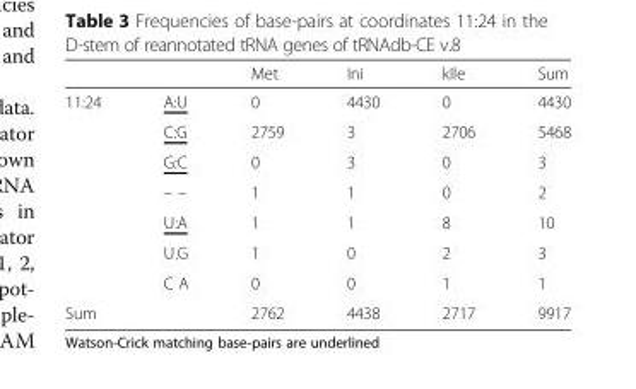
<table><thead><tr><td></td><td></td><td>Met</td><td>Ini</td><td>kIle</td><td>Sum</td></tr></thead><tbody><tr><td rowspan="7">11:24</td><td>A:U</td><td>0</td><td>4430</td><td>0</td><td>4430</td></tr><tr><td>C:G</td><td>2759</td><td>3</td><td>2706</td><td>5468</td></tr><tr><td>G:C</td><td>0</td><td>3</td><td>0</td><td>3</td></tr><tr><td>– –</td><td>1</td><td>1</td><td>0</td><td>2</td></tr><tr><td>U:A</td><td>1</td><td>1</td><td>8</td><td>10</td></tr><tr><td>U.G</td><td>1</td><td>0</td><td>2</td><td>3</td></tr><tr><td>C A</td><td>0</td><td>0</td><td>1</td><td>1</td></tr><tr><td>Sum</td><td></td><td>2762</td><td>4438</td><td>2717</td><td>9917</td></tr></tbody></table>